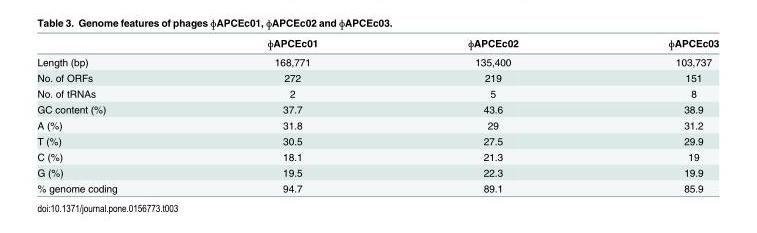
<table><thead><tr><td></td><td>ɸAPCEc01</td><td>ɸAPCEc02</td><td>ɸAPCEc03</td></tr></thead><tbody><tr><td>Length (bp)</td><td>168,771</td><td>135,400</td><td>103,737</td></tr><tr><td>No. of ORFs</td><td>272</td><td>219</td><td>151</td></tr><tr><td>No. of tRNAs</td><td>2</td><td>5</td><td>8</td></tr><tr><td>GC content (%)</td><td>37.7</td><td>43.6</td><td>38.9</td></tr><tr><td>A (%)</td><td>31.8</td><td>29</td><td>31.2</td></tr><tr><td>T (%)</td><td>30.5</td><td>27.5</td><td>29.9</td></tr><tr><td>C (%)</td><td>18.1</td><td>21.3</td><td>19</td></tr><tr><td>G (%)</td><td>19.5</td><td>22.3</td><td>19.9</td></tr><tr><td>% genome coding</td><td>94.7</td><td>89.1</td><td>85.9</td></tr></tbody></table>